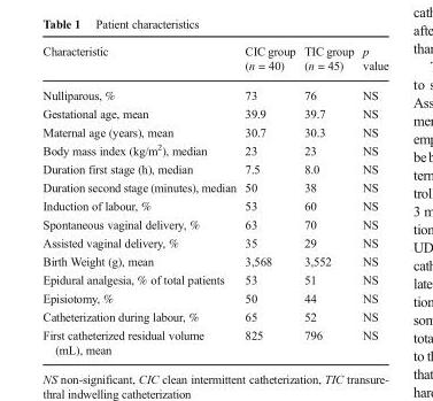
<table><thead><tr><td>Characteristic</td><td>CIC group (n = 40)</td><td>TIC group (n = 45)</td><td>p value</td></tr></thead><tbody><tr><td>Nulliparous, %</td><td>73</td><td>76</td><td>NS</td></tr><tr><td>Gestational age, mean</td><td>39.9</td><td>39.7</td><td>NS</td></tr><tr><td>Maternal age (years), mean</td><td>30.7</td><td>30.3</td><td>NS</td></tr><tr><td>Body mass index (kg/m<sup>2</sup>), median</td><td>23</td><td>23</td><td>NS</td></tr><tr><td>Duration first stage (h), median</td><td>7.5</td><td>8.0</td><td>NS</td></tr><tr><td>Duration second stage (minutes), median</td><td>50</td><td>38</td><td>NS</td></tr><tr><td>Induction of labour, %</td><td>53</td><td>60</td><td>NS</td></tr><tr><td>Spontaneous vaginal delivery, %</td><td>63</td><td>70</td><td>NS</td></tr><tr><td>Assisted vaginal delivery, %</td><td>35</td><td>29</td><td>NS</td></tr><tr><td>Birth Weight (g), mean</td><td>3,568</td><td>3,552</td><td>NS</td></tr><tr><td>Epidural analgesia, % of total patients</td><td>53</td><td>51</td><td>NS</td></tr><tr><td>Episiotomy, %</td><td>50</td><td>44</td><td>NS</td></tr><tr><td>Catheterization during labour, %</td><td>65</td><td>52</td><td>NS</td></tr><tr><td>First catheterized residual volume (mL), mean</td><td>825</td><td>796</td><td>NS</td></tr></tbody></table>